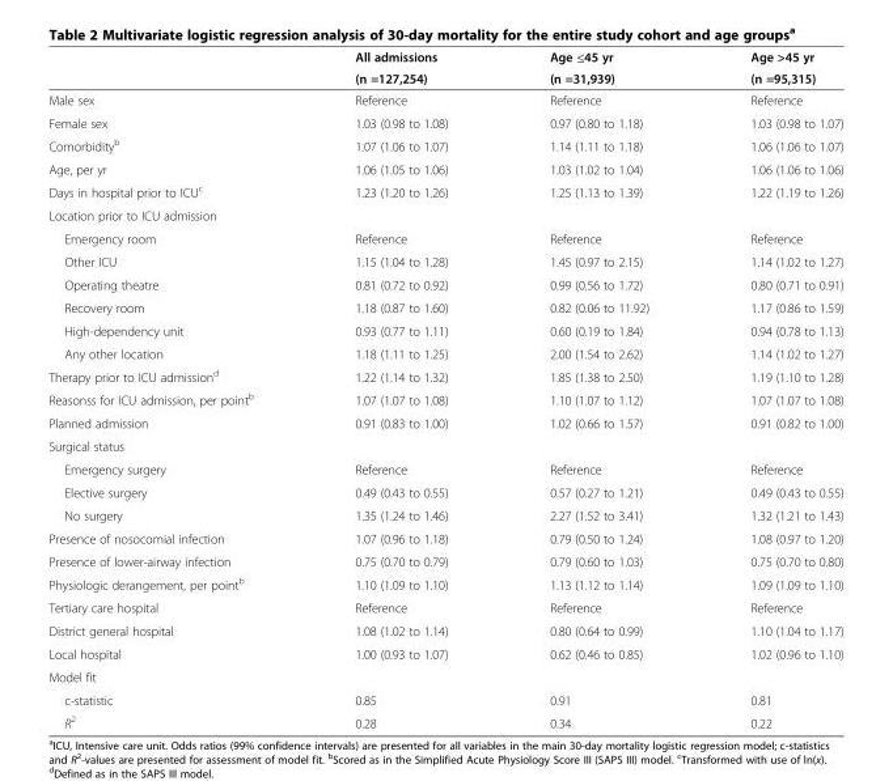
<table><thead><tr><td rowspan="2"></td><td rowspan="2">All admissions (n =127,254)</td><td rowspan="2">Age ≤45 yr (n =31,939)</td><td rowspan="2">Age &gt;45 yr (n =95,315)</td></tr><tr></tr></thead><tbody><tr><td>Male sex</td><td>Reference</td><td>Reference</td><td>Reference</td></tr><tr><td>Female sex</td><td>1.03 (0.98 to 1.08)</td><td>0.97 (0.80 to 1.18)</td><td>1.03 (0.98 to 1.07)</td></tr><tr><td>Comorbidity<sup>b</sup></td><td>1.07 (1.06 to 1.07)</td><td>1.14 (1.11 to 1.18)</td><td>1.06 (1.06 to 1.07)</td></tr><tr><td>Age, per yr</td><td>1.06 (1.05 to 1.06)</td><td>1.03 (1.02 to 1.04)</td><td>1.06 (1.06 to 1.06)</td></tr><tr><td>Days in hospital prior to ICU<sup>c</sup></td><td>1.23 (1.20 to 1.26)</td><td>1.25 (1.13 to 1.39)</td><td>1.22 (1.19 to 1.26)</td></tr><tr><td colspan="4">Location prior to ICU admission</td></tr><tr><td>Emergency room</td><td>Reference</td><td>Reference</td><td>Reference</td></tr><tr><td>Other ICU</td><td>1.15 (1.04 to 1.28)</td><td>1.45 (0.97 to 2.15)</td><td>1.14 (1.02 to 1.27)</td></tr><tr><td>Operating theatre</td><td>0.81 (0.72 to 0.92)</td><td>0.99 (0.56 to 1.72)</td><td>0.80 (0.71 to 0.91)</td></tr><tr><td>Recovery room</td><td>1.18 (0.87 to 1.60)</td><td>0.82 (0.06 to 11.92)</td><td>1.17 (0.86 to 1.59)</td></tr><tr><td>High-dependency unit</td><td>0.93 (0.77 to 1.11)</td><td>0.60 (0.19 to 1.84)</td><td>0.94 (0.78 to 1.13)</td></tr><tr><td>Any other location</td><td>1.18 (1.11 to 1.25)</td><td>2.00 (1.54 to 2.62)</td><td>1.14 (1.02 to 1.27)</td></tr><tr><td>Therapy prior to ICU admission<sup>d</sup></td><td>1.22 (1.14 to 1.32)</td><td>1.85 (1.38 to 2.50)</td><td>1.19 (1.10 to 1.28)</td></tr><tr><td>Reasonss for ICU admission, per point<sup>b</sup></td><td>1.07 (1.07 to 1.08)</td><td>1.10 (1.07 to 1.12)</td><td>1.07 (1.07 to 1.08)</td></tr><tr><td>Planned admission</td><td>0.91 (0.83 to 1.00)</td><td>1.02 (0.66 to 1.57)</td><td>0.91 (0.82 to 1.00)</td></tr><tr><td colspan="4">Surgical status</td></tr><tr><td>Emergency surgery</td><td>Reference</td><td>Reference</td><td>Reference</td></tr><tr><td>Elective surgery</td><td>0.49 (0.43 to 0.55)</td><td>0.57 (0.27 to 1.21)</td><td>0.49 (0.43 to 0.55)</td></tr><tr><td>No surgery</td><td>1.35 (1.24 to 1.46)</td><td>2.27 (1.52 to 3.41)</td><td>1.32 (1.21 to 1.43)</td></tr><tr><td>Presence of nosocomial infection</td><td>1.07 (0.96 to 1.18)</td><td>0.79 (0.50 to 1.24)</td><td>1.08 (0.97 to 1.20)</td></tr><tr><td>Presence of lower-airway infection</td><td>0.75 (0.70 to 0.79)</td><td>0.79 (0.60 to 1.03)</td><td>0.75 (0.70 to 0.80)</td></tr><tr><td>Physiologic derangement, per point<sup>b</sup></td><td>1.10 (1.09 to 1.10)</td><td>1.13 (1.12 to 1.14)</td><td>1.09 (1.09 to 1.10)</td></tr><tr><td>Tertiary care hospital</td><td>Reference</td><td>Reference</td><td>Reference</td></tr><tr><td>District general hospital</td><td>1.08 (1.02 to 1.14)</td><td>0.80 (0.64 to 0.99)</td><td>1.10 (1.04 to 1.17)</td></tr><tr><td>Local hospital</td><td>1.00 (0.93 to 1.07)</td><td>0.62 (0.46 to 0.85)</td><td>1.02 (0.96 to 1.10)</td></tr><tr><td colspan="4">Model fit</td></tr><tr><td>c-statistic</td><td>0.85</td><td>0.91</td><td>0.81</td></tr><tr><td>R<sup>2</sup></td><td>0.28</td><td>0.34</td><td>0.22</td></tr></tbody></table>